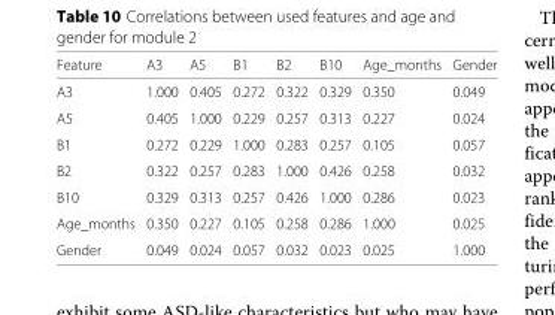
<table><thead><tr><td>Feature</td><td>A3</td><td>A5</td><td>B1</td><td>B2</td><td>B10</td><td>Age_months</td><td>Gender</td></tr></thead><tbody><tr><td>A3</td><td>1.000</td><td>0.405</td><td>0.272</td><td>0.322</td><td>0.329</td><td>0.350</td><td>0.049</td></tr><tr><td>A5</td><td>0.405</td><td>1.000</td><td>0.229</td><td>0.257</td><td>0.313</td><td>0.227</td><td>0.024</td></tr><tr><td>B1</td><td>0.272</td><td>0.229</td><td>1.000</td><td>0.283</td><td>0.257</td><td>0.105</td><td>0.057</td></tr><tr><td>B2</td><td>0.322</td><td>0.257</td><td>0.283</td><td>1.000</td><td>0.426</td><td>0.258</td><td>0.032</td></tr><tr><td>B10</td><td>0.329</td><td>0.313</td><td>0.257</td><td>0.426</td><td>1.000</td><td>0.286</td><td>0.023</td></tr><tr><td>Age_months</td><td>0.350</td><td>0.227</td><td>0.105</td><td>0.258</td><td>0.286</td><td>1.000</td><td>0.025</td></tr><tr><td>Gender</td><td>0.049</td><td>0.024</td><td>0.057</td><td>0.032</td><td>0.023</td><td>0.025</td><td>1.000</td></tr></tbody></table>